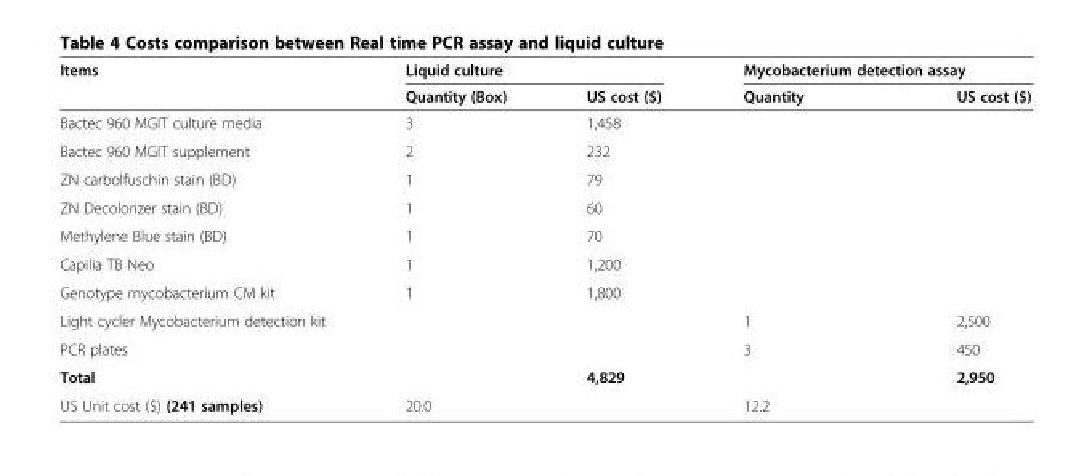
<table><thead><tr><td rowspan="2">Items</td><td colspan="2">Liquid culture</td><td colspan="2">Mycobacterium detection assay</td></tr><tr><td>Quantity (Box)</td><td>US cost ($)</td><td>Quantity</td><td>US cost ($)</td></tr></thead><tbody><tr><td>Bactec 960 MGIT culture media</td><td>3</td><td>1,458</td><td></td><td></td></tr><tr><td>Bactec 960 MGIT supplement</td><td>2</td><td>232</td><td></td><td></td></tr><tr><td>ZN carbolfuschin stain (BD)</td><td>1</td><td>79</td><td></td><td></td></tr><tr><td>ZN Decolorizer stain (BD)</td><td>1</td><td>60</td><td></td><td></td></tr><tr><td>Methylene Blue stain (BD)</td><td>1</td><td>70</td><td></td><td></td></tr><tr><td>Capilia TB Neo</td><td>1</td><td>1,200</td><td></td><td></td></tr><tr><td>Genotype mycobacterium CM kit</td><td>1</td><td>1,800</td><td></td><td></td></tr><tr><td>Light cycler Mycobacterium detection kit</td><td></td><td></td><td>1</td><td>2,500</td></tr><tr><td>PCR plates</td><td></td><td></td><td>3</td><td>450</td></tr><tr><td>Total</td><td></td><td>4,829</td><td></td><td>2,950</td></tr><tr><td>US Unit cost ($) (241 samples)</td><td colspan="2">20.0</td><td colspan="2">12.2</td></tr></tbody></table>